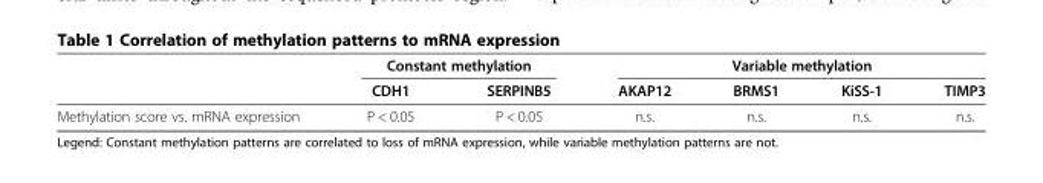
<table><thead><tr><td rowspan="2"></td><td colspan="2">Constant methylation</td><td colspan="4">Variable methylation</td></tr><tr><td>CDH1</td><td>SERPINB5</td><td>AKAP12</td><td>BRMS1</td><td>KiSS-1</td><td>TIMP3</td></tr></thead><tbody><tr><td>Methylation score vs. mRNA expression</td><td>P &lt; 0.05</td><td>P &lt; 0.05</td><td>n.s.</td><td>n.s.</td><td>n.s.</td><td>n.s.</td></tr></tbody></table>